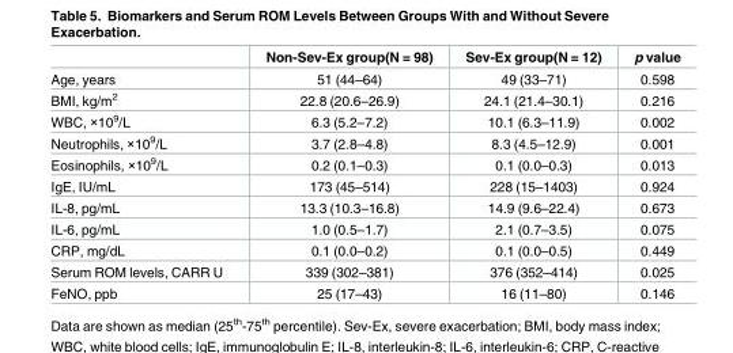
<table><thead><tr><td></td><td>Non-Sev-Ex group(N = 98)</td><td>Sev-Ex group(N = 12)</td><td>p value</td></tr></thead><tbody><tr><td>Age, years</td><td>51 (44–64)</td><td>49 (33–71)</td><td>0.598</td></tr><tr><td>BMI, kg/m<sup>2</sup></td><td>22.8 (20.6–26.9)</td><td>24.1 (21.4–30.1)</td><td>0.216</td></tr><tr><td>WBC, ×10<sup>9</sup>/L</td><td>6.3 (5.2–7.2)</td><td>10.1 (6.3–11.9)</td><td>0.002</td></tr><tr><td>Neutrophils, ×10<sup>9</sup>/L</td><td>3.7 (2.8–4.8)</td><td>8.3 (4.5–12.9)</td><td>0.001</td></tr><tr><td>Eosinophils, ×10<sup>9</sup>/L</td><td>0.2 (0.1–0.3)</td><td>0.1 (0.0–0.3)</td><td>0.013</td></tr><tr><td>IgE, IU/mL</td><td>173 (45–514)</td><td>228 (15–1403)</td><td>0.924</td></tr><tr><td>IL-8, pg/mL</td><td>13.3 (10.3–16.8)</td><td>14.9 (9.6–22.4)</td><td>0.673</td></tr><tr><td>IL-6, pg/mL</td><td>1.0 (0.5–1.7)</td><td>2.1 (0.7–3.5)</td><td>0.075</td></tr><tr><td>CRP, mg/dL</td><td>0.1 (0.0–0.2)</td><td>0.1 (0.0–0.5)</td><td>0.449</td></tr><tr><td>Serum ROM levels, CARR U</td><td>339 (302–381)</td><td>376 (352–414)</td><td>0.025</td></tr><tr><td>FeNO, ppb</td><td>25 (17–43)</td><td>16 (11–80)</td><td>0.146</td></tr></tbody></table>